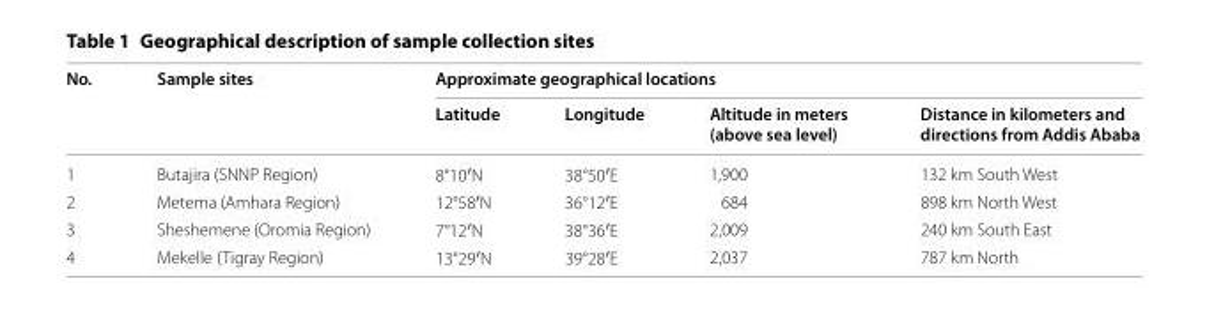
<table><thead><tr><td rowspan="2">No.</td><td rowspan="2">Sample sites</td><td colspan="4">Approximate geographical locations</td></tr><tr><td>Latitude</td><td>Longitude</td><td>Altitude in meters (above sea level)</td><td>Distance in kilometers and directions from Addis Ababa</td></tr></thead><tbody><tr><td>1</td><td>Butajira (SNNP Region)</td><td>8°10′N</td><td>38°50′E</td><td>1,900</td><td>132 km South West</td></tr><tr><td>2</td><td>Metema (Amhara Region)</td><td>12°58′N</td><td>36°12′E</td><td>684</td><td>898 km North West</td></tr><tr><td>3</td><td>Sheshemene (Oromia Region)</td><td>7°12′N</td><td>38°36′E</td><td>2,009</td><td>240 km South East</td></tr><tr><td>4</td><td>Mekelle (Tigray Region)</td><td>13°29′N</td><td>39°28′E</td><td>2,037</td><td>787 km North</td></tr></tbody></table>